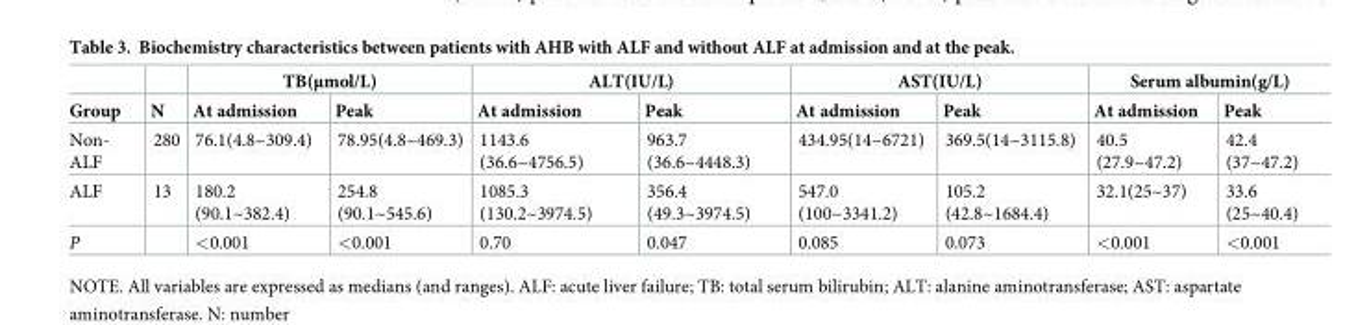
<table><thead><tr><td rowspan="2">Group</td><td rowspan="2">N</td><td colspan="2">TB(μmol/L)</td><td colspan="2">ALT(IU/L)</td><td colspan="2">AST(IU/L)</td><td colspan="2">Serum albumin(g/L)</td></tr><tr><td>At admission</td><td>Peak</td><td>At admission</td><td>Peak</td><td>At admission</td><td>Peak</td><td>At admission</td><td>Peak</td></tr></thead><tbody><tr><td>Non- ALF</td><td>280</td><td>76.1(4.8~309.4)</td><td>78.95(4.8~469.3)</td><td>1143.6 (36.6~4756.5)</td><td>963.7 (36.6~4448.3)</td><td>434.95(14~6721)</td><td>369.5(14~3115.8)</td><td>40.5 (27.9~47.2)</td><td>42.4 (37~47.2)</td></tr><tr><td>ALF</td><td>13</td><td>180.2 (90.1~382.4)</td><td>254.8 (90.1~545.6)</td><td>1085.3 (130.2~3974.5)</td><td>356.4 (49.3~3974.5)</td><td>547.0 (100~3341.2)</td><td>105.2 (42.8~1684.4)</td><td>32.1(25~37)</td><td>33.6 (25~40.4)</td></tr><tr><td>P</td><td></td><td>&lt;0.001</td><td>&lt;0.001</td><td>0.70</td><td>0.047</td><td>0.085</td><td>0.073</td><td>&lt;0.001</td><td>&lt;0.001</td></tr></tbody></table>